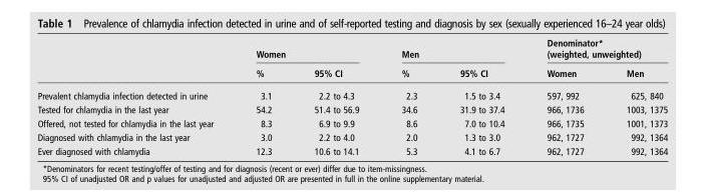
<table><thead><tr><td rowspan="2"></td><td colspan="2">Women</td><td colspan="2">Men</td><td colspan="2">Denominator* (weighted, unweighted)</td></tr><tr><td>%</td><td>95% CI</td><td>%</td><td>95% CI</td><td>Women</td><td>Men</td></tr></thead><tbody><tr><td>Prevalent chlamydia infection detected in urine</td><td>3.1</td><td>2.2 to 4.3</td><td>2.3</td><td>1.5 to 3.4</td><td>597, 992</td><td>625, 840</td></tr><tr><td>Tested for chlamydia in the last year</td><td>54.2</td><td>51.4 to 56.9</td><td>34.6</td><td>31.9 to 37.4</td><td>966, 1736</td><td>1003, 1375</td></tr><tr><td>Offered, not tested for chlamydia in the last year</td><td>8.3</td><td>6.9 to 9.9</td><td>8.6</td><td>7.0 to 10.4</td><td>966, 1735</td><td>1001, 1373</td></tr><tr><td>Diagnosed with chlamydia in the last year</td><td>3.0</td><td>2.2 to 4.0</td><td>2.0</td><td>1.3 to 3.0</td><td>962, 1727</td><td>992, 1364</td></tr><tr><td>Ever diagnosed with chlamydia</td><td>12.3</td><td>10.6 to 14.1</td><td>5.3</td><td>4.1 to 6.7</td><td>962, 1727</td><td>992, 1364</td></tr></tbody></table>